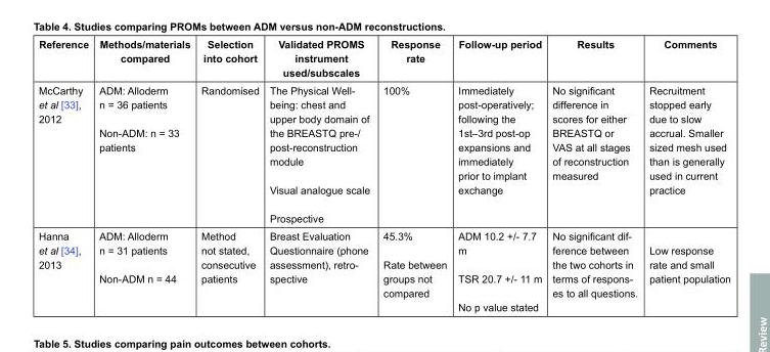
<table><thead><tr><td>Reference</td><td>Methods/materials compared</td><td>Selection into cohort</td><td>Validated PROMS instrument used/subscales</td><td>Response rate</td><td>Follow-up period</td><td>Results</td><td>Comments</td></tr></thead><tbody><tr><td>McCarthy et al [33], 2012</td><td>ADM: Alloderm n = 36 patients Non-ADM: n = 33 patients</td><td>Randomised</td><td>The Physical Well- being: chest and upper body domain of the BREASTQ pre-/ post-reconstruction module Visual analogue scale Prospective</td><td>100%</td><td>Immediately post-operatively; following the 1st–3rd post-op expansions and immediately prior to implant exchange</td><td>No significant difference in scores for either BREASTQ or VAS at all stages of reconstruction measured</td><td>Recruitment stopped early due to slow accrual. Smaller sized mesh used than is generally used in current practice</td></tr><tr><td>Hanna et al [34], 2013</td><td>ADM: Alloderm n = 31 patients Non-ADM n = 44</td><td>Method not stated, consecutive patients</td><td>Breast Evaluation Questionnaire (phone assessment), retro- spective</td><td>45.3% Rate between groups not compared</td><td>ADM 10.2 +/- 7.7 m TSR 20.7 +/- 11 m No p value stated</td><td>No significant dif- ference between the two cohorts in terms of respons- es to all questions.</td><td>Low response rate and small patient population</td></tr></tbody></table>